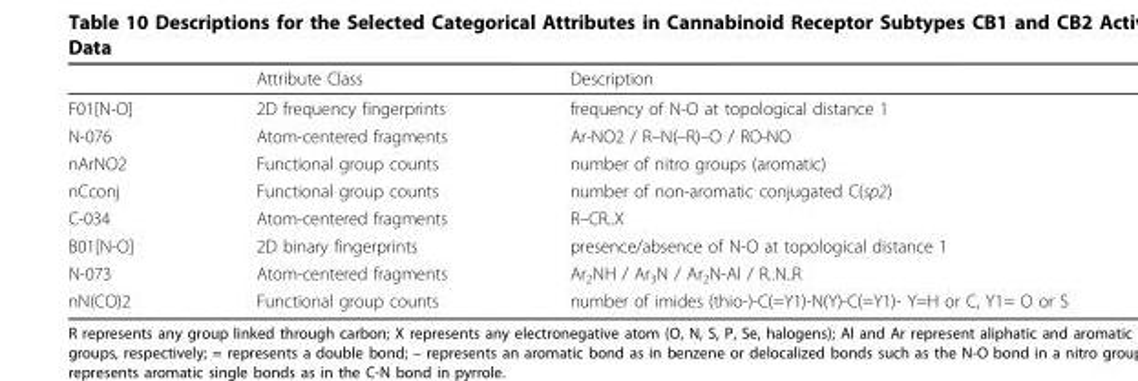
<table><thead><tr><td></td><td>Attribute Class</td><td>Description</td></tr></thead><tbody><tr><td>F01[N-O]</td><td>2D frequency fingerprints</td><td>frequency of N-O at topological distance 1</td></tr><tr><td>N-076</td><td>Atom-centered fragments</td><td>Ar-NO2 / R–N(–R)–O / RO-NO</td></tr><tr><td>nArNO2</td><td>Functional group counts</td><td>number of nitro groups (aromatic)</td></tr><tr><td>nCconj</td><td>Functional group counts</td><td>number of non-aromatic conjugated C(sp2)</td></tr><tr><td>C-034</td><td>Atom-centered fragments</td><td>R–CR..X</td></tr><tr><td>B01[N-O]</td><td>2D binary fingerprints</td><td>presence/absence of N-O at topological distance 1</td></tr><tr><td>N-073</td><td>Atom-centered fragments</td><td>Ar<sub>2</sub>NH / Ar<sub>3</sub>N / Ar<sub>2</sub>N-Al / R..N..R</td></tr><tr><td>nN(CO)2</td><td>Functional group counts</td><td>number of imides (thio-)-C(=Y1)-N(Y)-C(=Y1)- Y=H or C, Y1= O or S</td></tr></tbody></table>